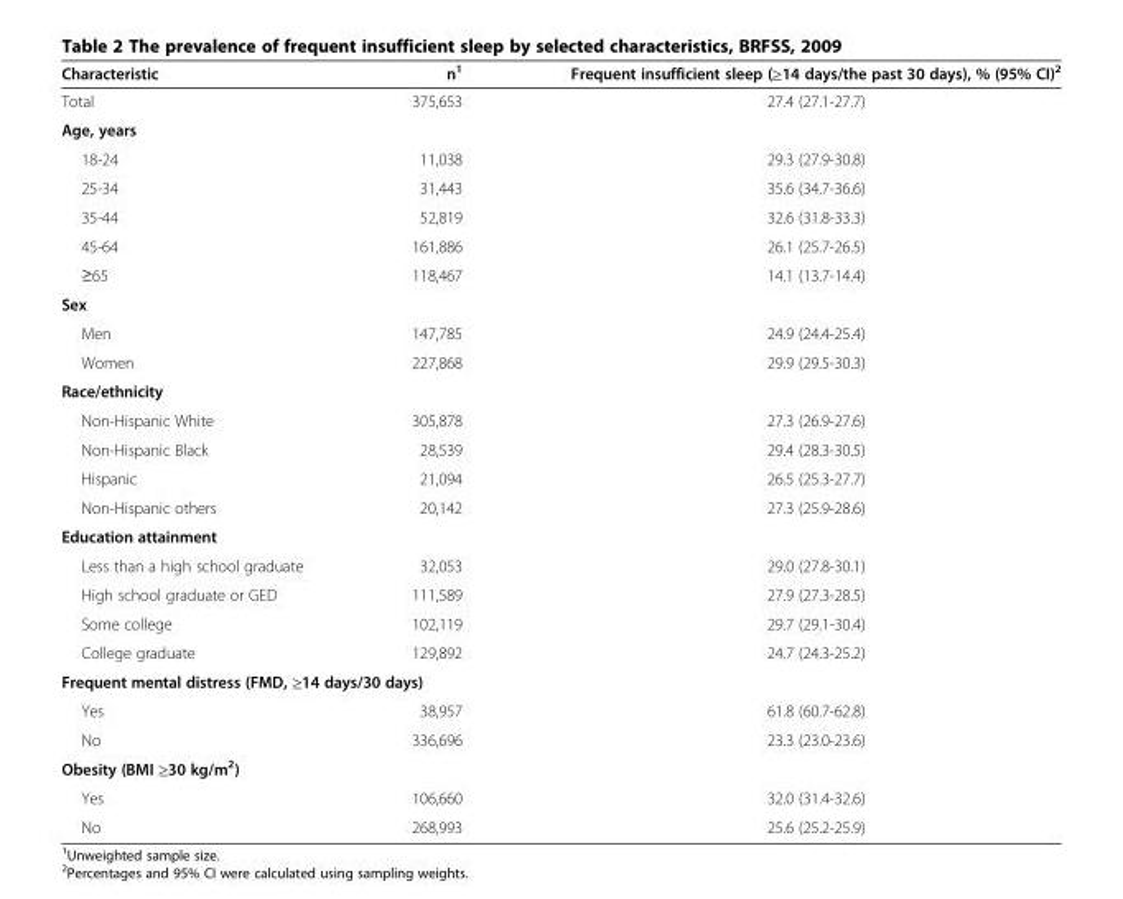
<table><thead><tr><td>Characteristic</td><td>n<sup>1</sup></td><td>Frequent insufficient sleep (≥14 days/the past 30 days), % (95% CI)<sup>2</sup></td></tr></thead><tbody><tr><td>Total</td><td>375,653</td><td>27.4 (27.1-27.7)</td></tr><tr><td colspan="3">Age, years</td></tr><tr><td>18-24</td><td>11,038</td><td>29.3 (27.9-30.8)</td></tr><tr><td>25-34</td><td>31,443</td><td>35.6 (34.7-36.6)</td></tr><tr><td>35-44</td><td>52,819</td><td>32.6 (31.8-33.3)</td></tr><tr><td>45-64</td><td>161,886</td><td>26.1 (25.7-26.5)</td></tr><tr><td>≥65</td><td>118,467</td><td>14.1 (13.7-14.4)</td></tr><tr><td colspan="3">Sex</td></tr><tr><td>Men</td><td>147,785</td><td>24.9 (24.4-25.4)</td></tr><tr><td>Women</td><td>227,868</td><td>29.9 (29.5-30.3)</td></tr><tr><td colspan="3">Race/ethnicity</td></tr><tr><td>Non-Hispanic White</td><td>305,878</td><td>27.3 (26.9-27.6)</td></tr><tr><td>Non-Hispanic Black</td><td>28,539</td><td>29.4 (28.3-30.5)</td></tr><tr><td>Hispanic</td><td>21,094</td><td>26.5 (25.3-27.7)</td></tr><tr><td>Non-Hispanic others</td><td>20,142</td><td>27.3 (25.9-28.6)</td></tr><tr><td colspan="3">Education attainment</td></tr><tr><td>Less than a high school graduate</td><td>32,053</td><td>29.0 (27.8-30.1)</td></tr><tr><td>High school graduate or GED</td><td>111,589</td><td>27.9 (27.3-28.5)</td></tr><tr><td>Some college</td><td>102,119</td><td>29.7 (29.1-30.4)</td></tr><tr><td>College graduate</td><td>129,892</td><td>24.7 (24.3-25.2)</td></tr><tr><td colspan="3">Frequent mental distress (FMD, ≥14 days/30 days)</td></tr><tr><td>Yes</td><td>38,957</td><td>61.8 (60.7-62.8)</td></tr><tr><td>No</td><td>336,696</td><td>23.3 (23.0-23.6)</td></tr><tr><td colspan="3">Obesity (BMI ≥30 kg/m<sup>2</sup>)</td></tr><tr><td>Yes</td><td>106,660</td><td>32.0 (31.4-32.6)</td></tr><tr><td>No</td><td>268,993</td><td>25.6 (25.2-25.9)</td></tr></tbody></table>